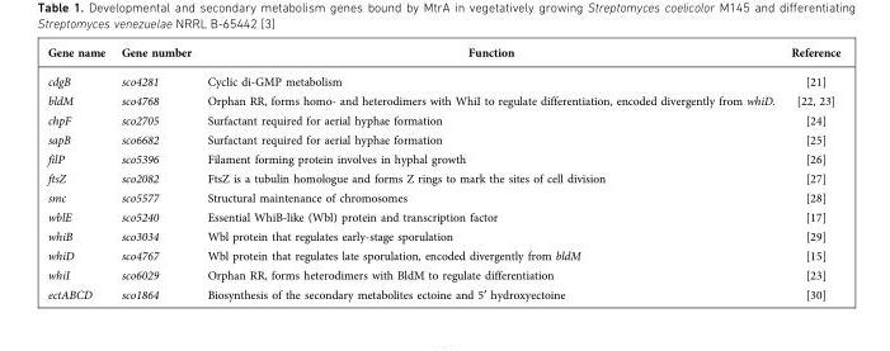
<table><thead><tr><td>Gene name</td><td>Gene number</td><td>Function</td><td>Reference</td></tr></thead><tbody><tr><td>cdgB</td><td>sco4281</td><td>Cyclic di-GMP metabolism</td><td>[21]</td></tr><tr><td>bldM</td><td>sco4768</td><td>Orphan RR, forms homo- and heterodimers with WhiI to regulate differentiation, encoded divergently from whiD.</td><td>[22, 23]</td></tr><tr><td>chpF</td><td>sco2705</td><td>Surfactant required for aerial hyphae formation</td><td>[24]</td></tr><tr><td>sapB</td><td>sco6682</td><td>Surfactant required for aerial hyphae formation</td><td>[25]</td></tr><tr><td>filP</td><td>sco5396</td><td>Filament forming protein involves in hyphal growth</td><td>[26]</td></tr><tr><td>ftsZ</td><td>sco2082</td><td>FtsZ is a tubulin homologue and forms Z rings to mark the sites of cell division</td><td>[27]</td></tr><tr><td>smc</td><td>sco5577</td><td>Structural maintenance of chromosomes</td><td>[28]</td></tr><tr><td>wblE</td><td>sco5240</td><td>Essential WhiB-like (Wbl) protein and transcription factor</td><td>[17]</td></tr><tr><td>whiB</td><td>sco3034</td><td>Wbl protein that regulates early-stage sporulation</td><td>[29]</td></tr><tr><td>whiD</td><td>sco4767</td><td>Wbl protein that regulates late sporulation, encoded divergently from bldM</td><td>[15]</td></tr><tr><td>whiI</td><td>sco6029</td><td>Orphan RR, forms heterodimers with BldM to regulate differentiation</td><td>[23]</td></tr><tr><td>ectABCD</td><td>sco1864</td><td>Biosynthesis of the secondary metabolites ectoine and 5¢ hydroxyectoine</td><td>[30]</td></tr></tbody></table>